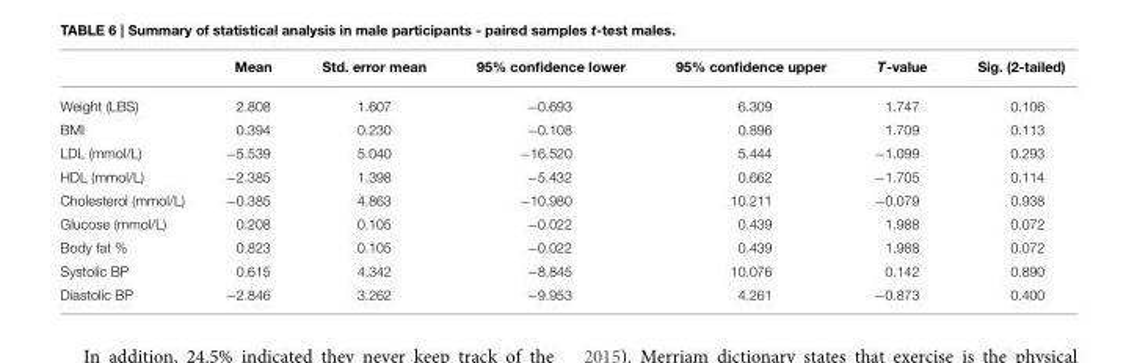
<table><thead><tr><td></td><td>Mean</td><td>Std. error mean</td><td>95% confidence lower</td><td>95% confidence upper</td><td>T-value</td><td>Sig. (2-tailed)</td></tr></thead><tbody><tr><td>Weight (LBS)</td><td>2.808</td><td>1.607</td><td>−0.693</td><td>6.309</td><td>1.747</td><td>0.106</td></tr><tr><td>BMI</td><td>0.394</td><td>0.230</td><td>−0.108</td><td>0.896</td><td>1.709</td><td>0.113</td></tr><tr><td>LDL (mmol/L)</td><td>−5.539</td><td>5.040</td><td>−16.520</td><td>5.444</td><td>−1.099</td><td>0.293</td></tr><tr><td>HDL (mmol/L)</td><td>−2.385</td><td>1.398</td><td>−5.432</td><td>0.662</td><td>−1.705</td><td>0.114</td></tr><tr><td>Cholesterol (mmol/L)</td><td>−0.385</td><td>4.863</td><td>−10.980</td><td>10.211</td><td>−0.079</td><td>0.938</td></tr><tr><td>Glucose (mmol/L)</td><td>0.208</td><td>0.105</td><td>−0.022</td><td>0.439</td><td>1.988</td><td>0.072</td></tr><tr><td>Body fat %</td><td>0.823</td><td>0.105</td><td>−0.022</td><td>0.439</td><td>1.988</td><td>0.072</td></tr><tr><td>Systolic BP</td><td>0.615</td><td>4.342</td><td>−8.845</td><td>10.076</td><td>0.142</td><td>0.890</td></tr><tr><td>Diastolic BP</td><td>−2.846</td><td>3.262</td><td>−9.953</td><td>4.261</td><td>−0.873</td><td>0.400</td></tr></tbody></table>